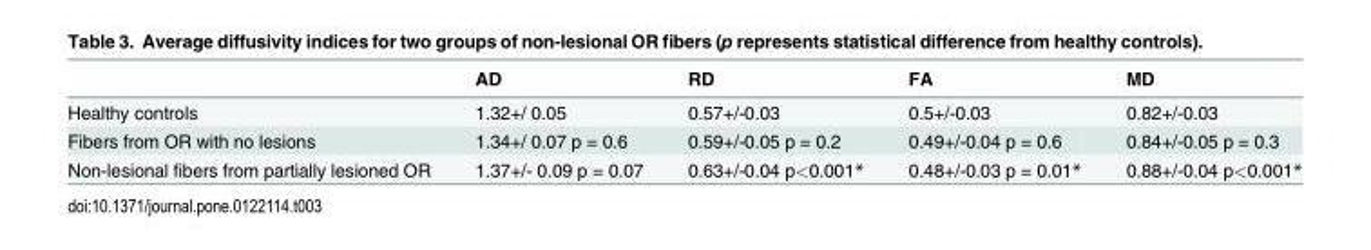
<table><thead><tr><td></td><td>AD</td><td>RD</td><td>FA</td><td>MD</td></tr></thead><tbody><tr><td>Healthy controls</td><td>1.32+/ 0.05</td><td>0.57+/-0.03</td><td>0.5+/-0.03</td><td>0.82+/-0.03</td></tr><tr><td>Fibers from OR with no lesions</td><td>1.34+/ 0.07 p = 0.6</td><td>0.59+/-0.05 p = 0.2</td><td>0.49+/-0.04 p = 0.6</td><td>0.84+/-0.05 p = 0.3</td></tr><tr><td>Non-lesional fibers from partially lesioned OR</td><td>1.37+/- 0.09 p = 0.07</td><td>0.63+/-0.04 p&lt;0.001*</td><td>0.48+/-0.03 p = 0.01*</td><td>0.88+/-0.04 p&lt;0.001*</td></tr></tbody></table>